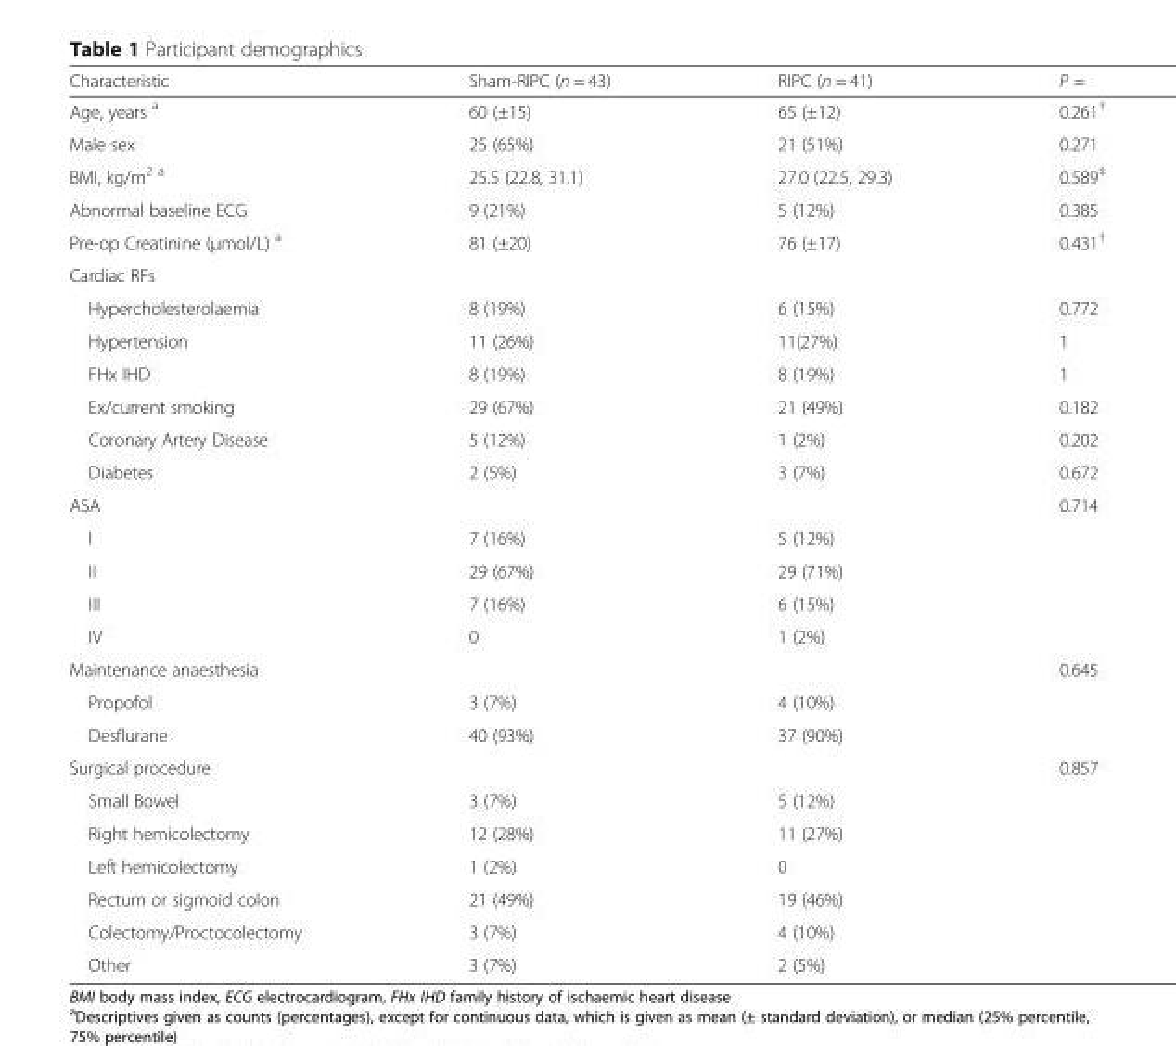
<table><thead><tr><td>Characteristic</td><td>Sham-RIPC (n = 43)</td><td>RIPC (n = 41)</td><td>P =</td></tr></thead><tbody><tr><td>Age, years <sup>a</sup></td><td>60 (±15)</td><td>65 (±12)</td><td>0.261<sup>†</sup></td></tr><tr><td>Male sex</td><td>25 (65%)</td><td>21 (51%)</td><td>0.271</td></tr><tr><td>BMI, kg/m<sup>2 a</sup></td><td>25.5 (22.8, 31.1)</td><td>27.0 (22.5, 29.3)</td><td>0.589<sup>‡</sup></td></tr><tr><td>Abnormal baseline ECG</td><td>9 (21%)</td><td>5 (12%)</td><td>0.385</td></tr><tr><td>Pre-op Creatinine (μmol/L) <sup>a</sup></td><td>81 (±20)</td><td>76 (±17)</td><td>0.431<sup>†</sup></td></tr><tr><td colspan="4">Cardiac RFs</td></tr><tr><td>Hypercholesterolaemia</td><td>8 (19%)</td><td>6 (15%)</td><td>0.772</td></tr><tr><td>Hypertension</td><td>11 (26%)</td><td>11(27%)</td><td>1</td></tr><tr><td>FHx IHD</td><td>8 (19%)</td><td>8 (19%)</td><td>1</td></tr><tr><td>Ex/current smoking</td><td>29 (67%)</td><td>21 (49%)</td><td>0.182</td></tr><tr><td>Coronary Artery Disease</td><td>5 (12%)</td><td>1 (2%)</td><td>0.202</td></tr><tr><td>Diabetes</td><td>2 (5%)</td><td>3 (7%)</td><td>0.672</td></tr><tr><td colspan="3">ASA</td><td>0.714</td></tr><tr><td>I</td><td>7 (16%)</td><td>5 (12%)</td><td></td></tr><tr><td>II</td><td>29 (67%)</td><td>29 (71%)</td><td></td></tr><tr><td>III</td><td>7 (16%)</td><td>6 (15%)</td><td></td></tr><tr><td>IV</td><td>0</td><td>1 (2%)</td><td></td></tr><tr><td colspan="3">Maintenance anaesthesia</td><td>0.645</td></tr><tr><td>Propofol</td><td>3 (7%)</td><td>4 (10%)</td><td></td></tr><tr><td>Desflurane</td><td>40 (93%)</td><td>37 (90%)</td><td></td></tr><tr><td colspan="3">Surgical procedure</td><td>0.857</td></tr><tr><td>Small Bowel</td><td>3 (7%)</td><td>5 (12%)</td><td></td></tr><tr><td>Right hemicolectomy</td><td>12 (28%)</td><td>11 (27%)</td><td></td></tr><tr><td>Left hemicolectomy</td><td>1 (2%)</td><td>0</td><td></td></tr><tr><td>Rectum or sigmoid colon</td><td>21 (49%)</td><td>19 (46%)</td><td></td></tr><tr><td>Colectomy/Proctocolectomy</td><td>3 (7%)</td><td>4 (10%)</td><td></td></tr><tr><td>Other</td><td>3 (7%)</td><td>2 (5%)</td><td></td></tr></tbody></table>